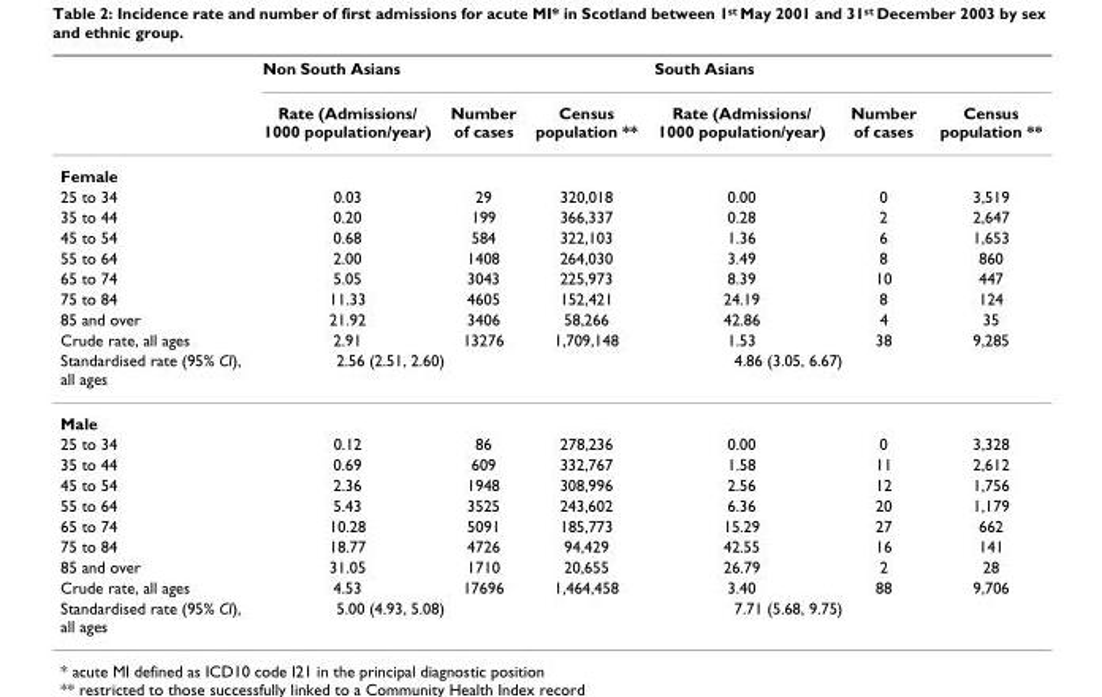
<table><thead><tr><td rowspan="2"></td><td colspan="3">Non South Asians</td><td colspan="3">South Asians</td></tr><tr><td>Rate (Admissions/ 1000 population/year)</td><td>Number of cases</td><td>Census population **</td><td>Rate (Admissions/ 1000 population/year)</td><td>Number of cases</td><td>Census population **</td></tr></thead><tbody><tr><td colspan="7">Female</td></tr><tr><td>25 to 34</td><td>0.03</td><td>29</td><td>320,018</td><td>0.00</td><td>0</td><td>3,519</td></tr><tr><td>35 to 44</td><td>0.20</td><td>199</td><td>366,337</td><td>0.28</td><td>2</td><td>2,647</td></tr><tr><td>45 to 54</td><td>0.68</td><td>584</td><td>322,103</td><td>1.36</td><td>6</td><td>1,653</td></tr><tr><td>55 to 64</td><td>2.00</td><td>1408</td><td>264,030</td><td>3.49</td><td>8</td><td>860</td></tr><tr><td>65 to 74</td><td>5.05</td><td>3043</td><td>225,973</td><td>8.39</td><td>10</td><td>447</td></tr><tr><td>75 to 84</td><td>11.33</td><td>4605</td><td>152,421</td><td>24.19</td><td>8</td><td>124</td></tr><tr><td>85 and over</td><td>21.92</td><td>3406</td><td>58,266</td><td>42.86</td><td>4</td><td>35</td></tr><tr><td>Crude rate, all ages</td><td>2.91</td><td>13276</td><td>1,709,148</td><td>1.53</td><td>38</td><td>9,285</td></tr><tr><td>Standardised rate (95% CI), all ages</td><td colspan="2">2.56 (2.51, 2.60)</td><td></td><td colspan="2">4.86 (3.05, 6.67)</td><td></td></tr><tr><td colspan="7">Male</td></tr><tr><td>25 to 34</td><td>0.12</td><td>86</td><td>278,236</td><td>0.00</td><td>0</td><td>3,328</td></tr><tr><td>35 to 44</td><td>0.69</td><td>609</td><td>332,767</td><td>1.58</td><td>11</td><td>2,612</td></tr><tr><td>45 to 54</td><td>2.36</td><td>1948</td><td>308,996</td><td>2.56</td><td>12</td><td>1,756</td></tr><tr><td>55 to 64</td><td>5.43</td><td>3525</td><td>243,602</td><td>6.36</td><td>20</td><td>1,179</td></tr><tr><td>65 to 74</td><td>10.28</td><td>5091</td><td>185,773</td><td>15.29</td><td>27</td><td>662</td></tr><tr><td>75 to 84</td><td>18.77</td><td>4726</td><td>94,429</td><td>42.55</td><td>16</td><td>141</td></tr><tr><td>85 and over</td><td>31.05</td><td>1710</td><td>20,655</td><td>26.79</td><td>2</td><td>28</td></tr><tr><td>Crude rate, all ages</td><td>4.53</td><td>17696</td><td>1,464,458</td><td>3.40</td><td>88</td><td>9,706</td></tr><tr><td>Standardised rate (95% CI), all ages</td><td colspan="2">5.00 (4.93, 5.08)</td><td></td><td colspan="2">7.71 (5.68, 9.75)</td><td></td></tr></tbody></table>